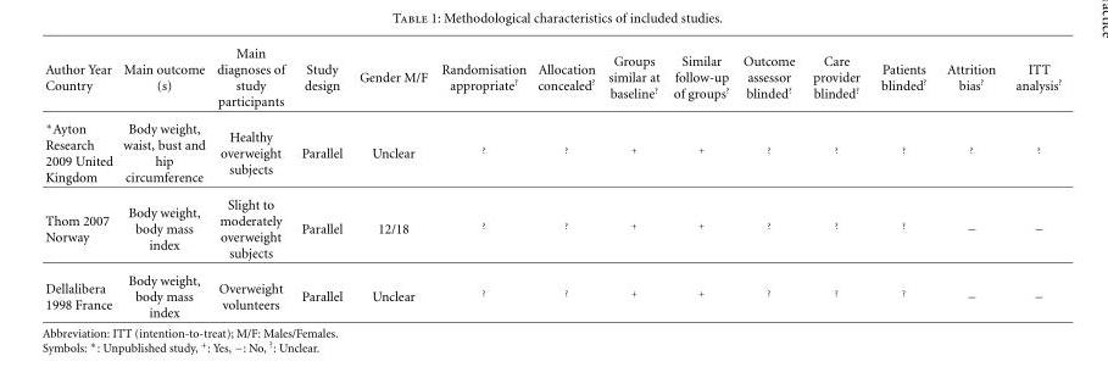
<table><thead><tr><td>Author Year Country</td><td>Main outcome (s)</td><td>Main diagnoses of study participants</td><td>Study design</td><td>Gender M/F</td><td>Randomisation appropriate<sup>?</sup></td><td>Allocation concealed<sup>?</sup></td><td>Groups similar at baseline<sup>?</sup></td><td>Similar follow-up of groups<sup>?</sup></td><td>Outcome assessor blinded<sup>?</sup></td><td>Care provider blinded<sup>?</sup></td><td>Patients blinded<sup>?</sup></td><td>Attrition bias<sup>?</sup></td><td>ITT analysis<sup>?</sup></td></tr></thead><tbody><tr><td>∗Ayton Research 2009 United Kingdom</td><td>Body weight, waist, bust and hip circumference</td><td>Healthy overweight subjects</td><td>Parallel</td><td>Unclear</td><td><sup>?</sup></td><td><sup>?</sup></td><td><sup>+</sup></td><td><sup>+</sup></td><td><sup>?</sup></td><td><sup>?</sup></td><td><sup>?</sup></td><td><sup>?</sup></td><td><sup>?</sup></td></tr><tr><td>Thom 2007 Norway</td><td>Body weight, body mass index</td><td>Slight to moderately overweight subjects</td><td>Parallel</td><td>12/18</td><td><sup>?</sup></td><td><sup>?</sup></td><td><sup>+</sup></td><td><sup>+</sup></td><td><sup>?</sup></td><td><sup>?</sup></td><td><sup>?</sup></td><td>−</td><td>−</td></tr><tr><td>Dellalibera 1998 France</td><td>Body weight, body mass index</td><td>Overweight volunteers</td><td>Parallel</td><td>Unclear</td><td><sup>?</sup></td><td><sup>?</sup></td><td><sup>+</sup></td><td><sup>+</sup></td><td><sup>?</sup></td><td><sup>?</sup></td><td><sup>?</sup></td><td>−</td><td>−</td></tr></tbody></table>